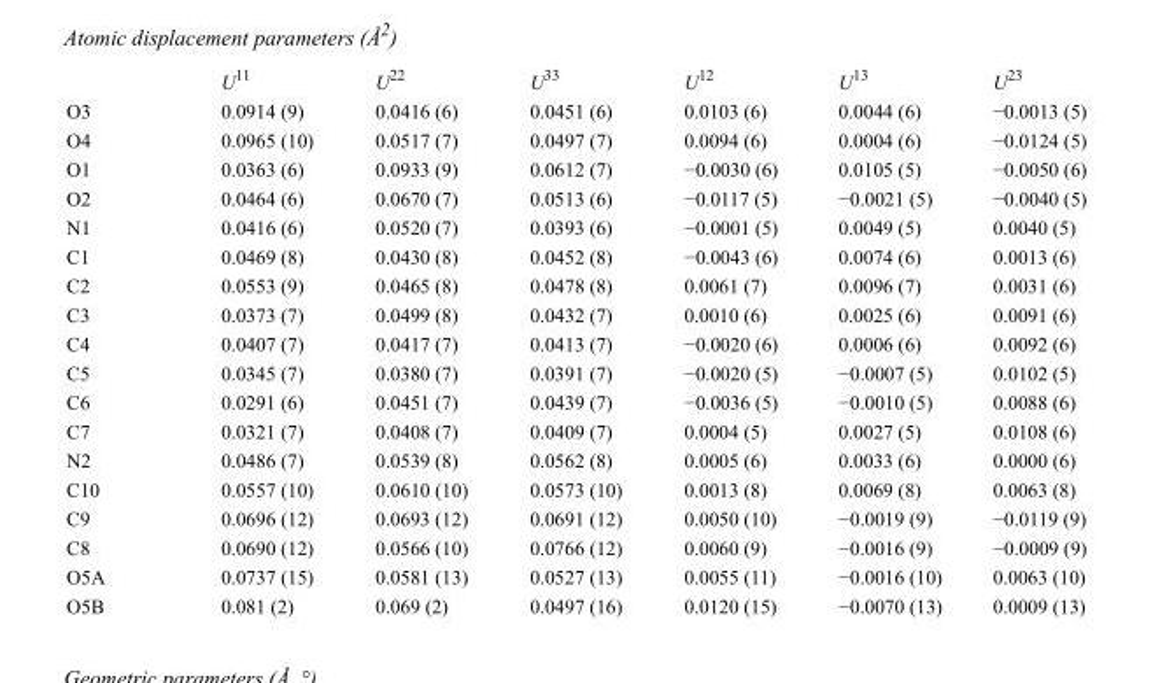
<table><thead><tr><td></td><td>U<sup>11</sup></td><td>U<sup>22</sup></td><td>U<sup>33</sup></td><td>U<sup>12</sup></td><td>U<sup>13</sup></td><td>U<sup>23</sup></td></tr></thead><tbody><tr><td>O3</td><td>0.0914 (9)</td><td>0.0416 (6)</td><td>0.0451 (6)</td><td>0.0103 (6)</td><td>0.0044 (6)</td><td>−0.0013 (5)</td></tr><tr><td>O4</td><td>0.0965 (10)</td><td>0.0517 (7)</td><td>0.0497 (7)</td><td>0.0094 (6)</td><td>0.0004 (6)</td><td>−0.0124 (5)</td></tr><tr><td>O1</td><td>0.0363 (6)</td><td>0.0933 (9)</td><td>0.0612 (7)</td><td>−0.0030 (6)</td><td>0.0105 (5)</td><td>−0.0050 (6)</td></tr><tr><td>O2</td><td>0.0464 (6)</td><td>0.0670 (7)</td><td>0.0513 (6)</td><td>−0.0117 (5)</td><td>−0.0021 (5)</td><td>−0.0040 (5)</td></tr><tr><td>N1</td><td>0.0416 (6)</td><td>0.0520 (7)</td><td>0.0393 (6)</td><td>−0.0001 (5)</td><td>0.0049 (5)</td><td>0.0040 (5)</td></tr><tr><td>C1</td><td>0.0469 (8)</td><td>0.0430 (8)</td><td>0.0452 (8)</td><td>−0.0043 (6)</td><td>0.0074 (6)</td><td>0.0013 (6)</td></tr><tr><td>C2</td><td>0.0553 (9)</td><td>0.0465 (8)</td><td>0.0478 (8)</td><td>0.0061 (7)</td><td>0.0096 (7)</td><td>0.0031 (6)</td></tr><tr><td>C3</td><td>0.0373 (7)</td><td>0.0499 (8)</td><td>0.0432 (7)</td><td>0.0010 (6)</td><td>0.0025 (6)</td><td>0.0091 (6)</td></tr><tr><td>C4</td><td>0.0407 (7)</td><td>0.0417 (7)</td><td>0.0413 (7)</td><td>−0.0020 (6)</td><td>0.0006 (6)</td><td>0.0092 (6)</td></tr><tr><td>C5</td><td>0.0345 (7)</td><td>0.0380 (7)</td><td>0.0391 (7)</td><td>−0.0020 (5)</td><td>−0.0007 (5)</td><td>0.0102 (5)</td></tr><tr><td>C6</td><td>0.0291 (6)</td><td>0.0451 (7)</td><td>0.0439 (7)</td><td>−0.0036 (5)</td><td>−0.0010 (5)</td><td>0.0088 (6)</td></tr><tr><td>C7</td><td>0.0321 (7)</td><td>0.0408 (7)</td><td>0.0409 (7)</td><td>0.0004 (5)</td><td>0.0027 (5)</td><td>0.0108 (6)</td></tr><tr><td>N2</td><td>0.0486 (7)</td><td>0.0539 (8)</td><td>0.0562 (8)</td><td>0.0005 (6)</td><td>0.0033 (6)</td><td>0.0000 (6)</td></tr><tr><td>C10</td><td>0.0557 (10)</td><td>0.0610 (10)</td><td>0.0573 (10)</td><td>0.0013 (8)</td><td>0.0069 (8)</td><td>0.0063 (8)</td></tr><tr><td>C9</td><td>0.0696 (12)</td><td>0.0693 (12)</td><td>0.0691 (12)</td><td>0.0050 (10)</td><td>−0.0019 (9)</td><td>−0.0119 (9)</td></tr><tr><td>C8</td><td>0.0690 (12)</td><td>0.0566 (10)</td><td>0.0766 (12)</td><td>0.0060 (9)</td><td>−0.0016 (9)</td><td>−0.0009 (9)</td></tr><tr><td>O5A</td><td>0.0737 (15)</td><td>0.0581 (13)</td><td>0.0527 (13)</td><td>0.0055 (11)</td><td>−0.0016 (10)</td><td>0.0063 (10)</td></tr><tr><td>O5B</td><td>0.081 (2)</td><td>0.069 (2)</td><td>0.0497 (16)</td><td>0.0120 (15)</td><td>−0.0070 (13)</td><td>0.0009 (13)</td></tr></tbody></table>